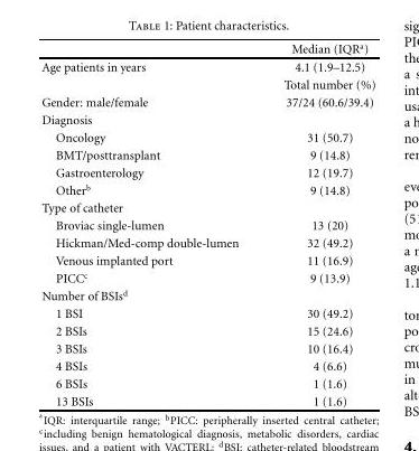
<table><thead><tr><td></td><td>Median (IQR<sup>a</sup>)</td></tr></thead><tbody><tr><td rowspan="2">Age patients in years</td><td>4.1 (1.9–12.5)</td></tr><tr><td>Total number (%)</td></tr><tr><td>Gender: male/female</td><td>37/24 (60.6/39.4)</td></tr><tr><td colspan="2">Diagnosis</td></tr><tr><td>Oncology</td><td>31 (50.7)</td></tr><tr><td>BMT/posttransplant</td><td>9 (14.8)</td></tr><tr><td>Gastroenterology</td><td>12 (19.7)</td></tr><tr><td>Other<sup>b</sup></td><td>9 (14.8)</td></tr><tr><td colspan="2">Type of catheter</td></tr><tr><td>Broviac single-lumen</td><td>13 (20)</td></tr><tr><td>Hickman/Med-comp double-lumen</td><td>32 (49.2)</td></tr><tr><td>Venous implanted port</td><td>11 (16.9)</td></tr><tr><td>PICC<sup>c</sup></td><td>9 (13.9)</td></tr><tr><td colspan="2">Number of BSIs<sup>d</sup></td></tr><tr><td>1 BSI</td><td>30 (49.2)</td></tr><tr><td>2 BSIs</td><td>15 (24.6)</td></tr><tr><td>3 BSIs</td><td>10 (16.4)</td></tr><tr><td>4 BSIs</td><td>4 (6.6)</td></tr><tr><td>6 BSIs</td><td>1 (1.6)</td></tr><tr><td>13 BSIs</td><td>1 (1.6)</td></tr></tbody></table>